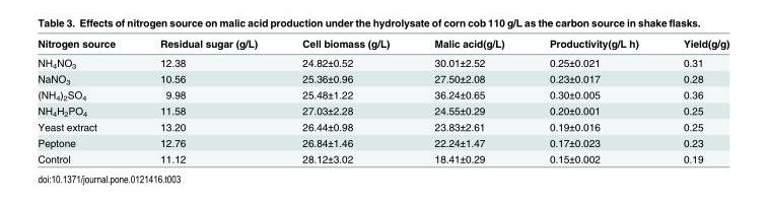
<table><thead><tr><td>Nitrogen source</td><td>Residual sugar (g/L)</td><td>Cell biomass (g/L)</td><td>Malic acid(g/L)</td><td>Productivity(g/L h)</td><td>Yield(g/g)</td></tr></thead><tbody><tr><td>NH<sub>4</sub>NO<sub>3</sub></td><td>12.38</td><td>24.82±0.52</td><td>30.01±2.52</td><td>0.25±0.021</td><td>0.31</td></tr><tr><td>NaNO<sub>3</sub></td><td>10.56</td><td>25.36±0.96</td><td>27.50±2.08</td><td>0.23±0.017</td><td>0.28</td></tr><tr><td>(NH<sub>4</sub>)<sub>2</sub>SO<sub>4</sub></td><td>9.98</td><td>25.48±1.22</td><td>36.24±0.65</td><td>0.30±0.005</td><td>0.36</td></tr><tr><td>NH<sub>4</sub>H<sub>2</sub>PO<sub>4</sub></td><td>11.58</td><td>27.03±2.28</td><td>24.55±0.29</td><td>0.20±0.001</td><td>0.25</td></tr><tr><td>Yeast extract</td><td>13.20</td><td>26.44±0.98</td><td>23.83±2.61</td><td>0.19±0.016</td><td>0.25</td></tr><tr><td>Peptone</td><td>12.76</td><td>26.84±1.46</td><td>22.24±1.47</td><td>0.17±0.023</td><td>0.23</td></tr><tr><td>Control</td><td>11.12</td><td>28.12±3.02</td><td>18.41±0.29</td><td>0.15±0.002</td><td>0.19</td></tr></tbody></table>